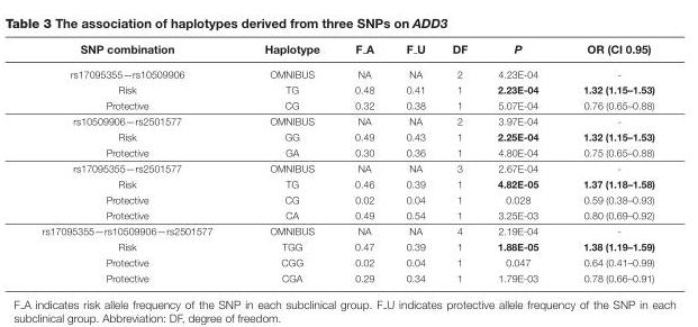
<table><thead><tr><td>SNP combination</td><td>Haplotype</td><td>F A</td><td>F U</td><td>DF</td><td>P</td><td>OR (CI 0.95)</td></tr></thead><tbody><tr><td>rs17095355—rs10509906</td><td>OMNIBUS</td><td>NA</td><td>NA</td><td>2</td><td>4.23E-04</td><td>-</td></tr><tr><td>Risk</td><td>TG</td><td>0.48</td><td>0.41</td><td>1</td><td>2.23E-04</td><td>1.32 (1.15–1.53)</td></tr><tr><td>Protective</td><td>CG</td><td>0.32</td><td>0.38</td><td>1</td><td>5.07E-04</td><td>0.76 (0.65–0.88)</td></tr><tr><td>rs10509906—rs2501577</td><td>OMNIBUS</td><td>NA</td><td>NA</td><td>2</td><td>3.97E-04</td><td>-</td></tr><tr><td>Risk</td><td>GG</td><td>0.49</td><td>0.43</td><td>1</td><td>2.25E-04</td><td>1.32 (1.15–1.53)</td></tr><tr><td>Protective</td><td>GA</td><td>0.30</td><td>0.36</td><td>1</td><td>4.80E-04</td><td>0.75 (0.65–0.88)</td></tr><tr><td>rs17095355—rs2501577</td><td>OMNIBUS</td><td>NA</td><td>NA</td><td>3</td><td>2.67E-04</td><td>-</td></tr><tr><td>Risk</td><td>TG</td><td>0.46</td><td>0.39</td><td>1</td><td>4.82E-05</td><td>1.37 (1.18–1.58)</td></tr><tr><td>Protective</td><td>CG</td><td>0.02</td><td>0.04</td><td>1</td><td>0.028</td><td>0.59 (0.38–0.93)</td></tr><tr><td>Protective</td><td>CA</td><td>0.49</td><td>0.54</td><td>1</td><td>3.25E-03</td><td>0.80 (0.69–0.92)</td></tr><tr><td>rs17095355—rs10509906—rs2501577</td><td>OMNIBUS</td><td>NA</td><td>NA</td><td>4</td><td>2.19E-04</td><td>-</td></tr><tr><td>Risk</td><td>TGG</td><td>0.47</td><td>0.39</td><td>1</td><td>1.88E-05</td><td>1.38 (1.19–1.59)</td></tr><tr><td>Protective</td><td>CGG</td><td>0.02</td><td>0.04</td><td>1</td><td>0.047</td><td>0.64 (0.41–0.99)</td></tr><tr><td>Protective</td><td>CGA</td><td>0.29</td><td>0.34</td><td>1</td><td>1.79E-03</td><td>0.78 (0.66–0.91)</td></tr></tbody></table>